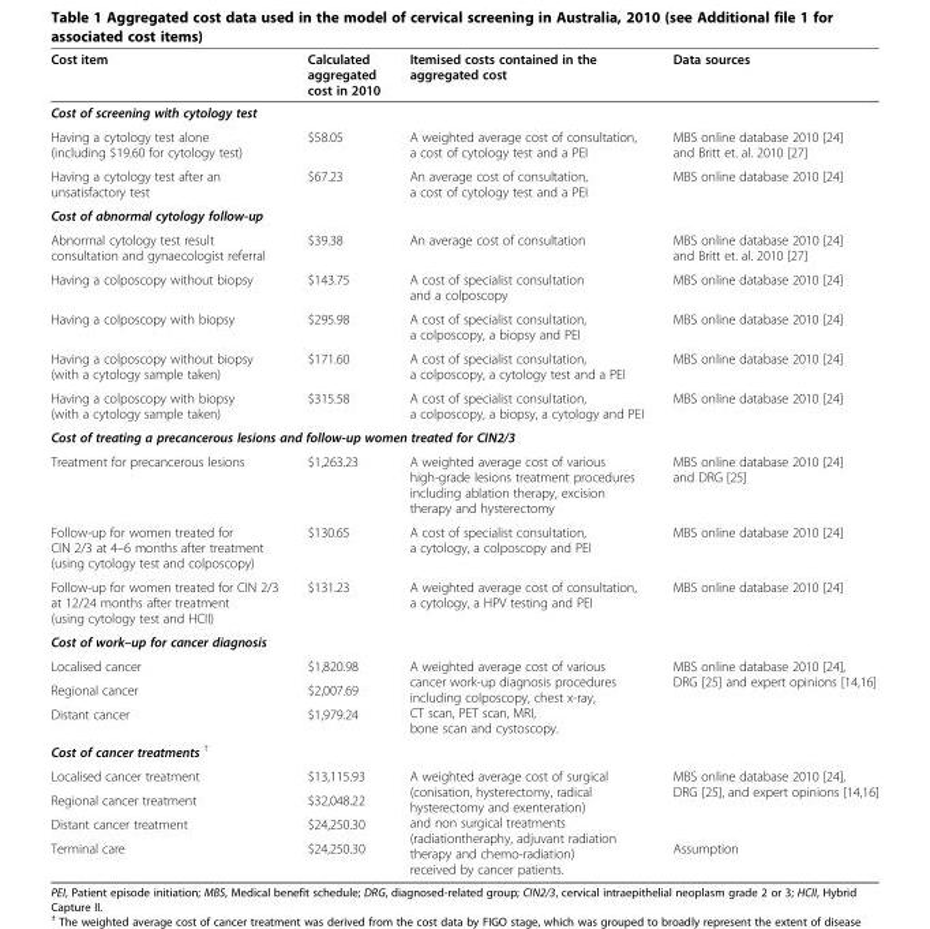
<table><thead><tr><td>Cost item</td><td>Calculated aggregated cost in 2010</td><td>Itemised costs contained in the aggregated cost</td><td>Data sources</td></tr></thead><tbody><tr><td colspan="4">Cost of screening with cytology test</td></tr><tr><td>Having a cytology test alone (including $19.60 for cytology test)</td><td>$58.05</td><td>A weighted average cost of consultation, a cost of cytology test and a PEI</td><td>MBS online database 2010 [24] and Britt et. al. 2010 [27]</td></tr><tr><td>Having a cytology test after an unsatisfactory test</td><td>$67.23</td><td>An average cost of consultation, a cost of cytology test and a PEI</td><td>MBS online database 2010 [24]</td></tr><tr><td colspan="4">Cost of abnormal cytology follow-up</td></tr><tr><td>Abnormal cytology test result consultation and gynaecologist referral</td><td>$39.38</td><td>An average cost of consultation</td><td>MBS online database 2010 [24] and Britt et. al. 2010 [27]</td></tr><tr><td>Having a colposcopy without biopsy</td><td>$143.75</td><td>A cost of specialist consultation and a colposcopy</td><td>MBS online database 2010 [24]</td></tr><tr><td>Having a colposcopy with biopsy</td><td>$295.98</td><td>A cost of specialist consultation, a colposcopy, a biopsy and PEI</td><td>MBS online database 2010 [24]</td></tr><tr><td>Having a colposcopy without biopsy (with a cytology sample taken)</td><td>$171.60</td><td>A cost of specialist consultation, a colposcopy, a cytology test and a PEI</td><td>MBS online database 2010 [24]</td></tr><tr><td>Having a colposcopy with biopsy (with a cytology sample taken)</td><td>$315.58</td><td>A cost of specialist consultation, a colposcopy, a biopsy, a cytology and PEI</td><td>MBS online database 2010 [24]</td></tr><tr><td colspan="4">Cost of treating a precancerous lesions and follow-up women treated for CIN2/3</td></tr><tr><td>Treatment for precancerous lesions</td><td>$1,263.23</td><td>A weighted average cost of various high-grade lesions treatment procedures including ablation therapy, excision therapy and hysterectomy</td><td>MBS online database 2010 [24] and DRG [25]</td></tr><tr><td>Follow-up for women treated for CIN 2/3 at 4–6 months after treatment (using cytology test and colposcopy)</td><td>$130.65</td><td>A cost of specialist consultation, a cytology, a colposcopy and PEI</td><td>MBS online database 2010 [24]</td></tr><tr><td>Follow-up for women treated for CIN 2/3 at 12/24 months after treatment (using cytology test and HCII)</td><td>$131.23</td><td>A weighted average cost of consultation, a cytology, a HPV testing and PEI</td><td>MBS online database 2010 [24]</td></tr><tr><td colspan="4">Cost of work–up for cancer diagnosis</td></tr><tr><td>Localised cancer</td><td>$1,820.98</td><td rowspan="3">A weighted average cost of various cancer work-up diagnosis procedures including colposcopy, chest x-ray, CT scan, PET scan, MRI, bone scan and cystoscopy.</td><td rowspan="3">MBS online database 2010 [24], DRG [25] and expert opinions [14,16]</td></tr><tr><td>Regional cancer</td><td>$2,007.69</td></tr><tr><td>Distant cancer</td><td>$1,979.24</td></tr><tr><td colspan="4">Cost of cancer treatments <sup>†</sup></td></tr><tr><td>Localised cancer treatment</td><td>$13,115.93</td><td rowspan="4">A weighted average cost of surgical (conisation, hysterectomy, radical hysterectomy and exenteration) and non surgical treatments (radiationtheraphy, adjuvant radiation therapy and chemo-radiation) received by cancer patients.</td><td rowspan="3">MBS online database 2010 [24], DRG [25], and expert opinions [14,16]</td></tr><tr><td>Regional cancer treatment</td><td>$32,048.22</td></tr><tr><td>Distant cancer treatment</td><td>$24,250.30</td></tr><tr><td>Terminal care</td><td>$24,250.30</td><td>Assumption</td></tr></tbody></table>